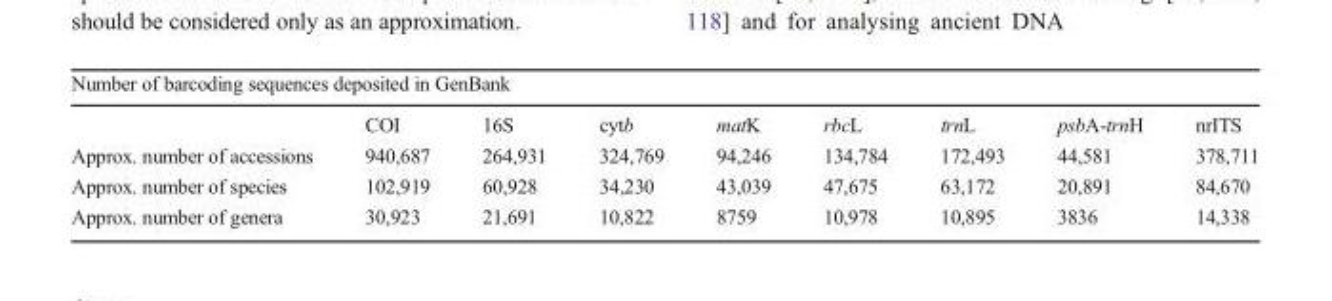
<table><tbody><tr><td colspan="9">Number of barcoding sequences deposited in GenBank</td></tr><tr><td></td><td>COI</td><td>16S</td><td>cytb</td><td>matK</td><td>rbcL</td><td>trnL</td><td>psbA-trnH</td><td>nrITS</td></tr><tr><td>Approx. number of accessions</td><td>940,687</td><td>264,931</td><td>324,769</td><td>94,246</td><td>134,784</td><td>172,493</td><td>44,581</td><td>378,711</td></tr><tr><td>Approx. number of species</td><td>102,919</td><td>60,928</td><td>34,230</td><td>43,039</td><td>47,675</td><td>63,172</td><td>20,891</td><td>84,670</td></tr><tr><td>Approx. number of genera</td><td>30,923</td><td>21,691</td><td>10,822</td><td>8759</td><td>10,978</td><td>10,895</td><td>3836</td><td>14,338</td></tr></tbody></table>